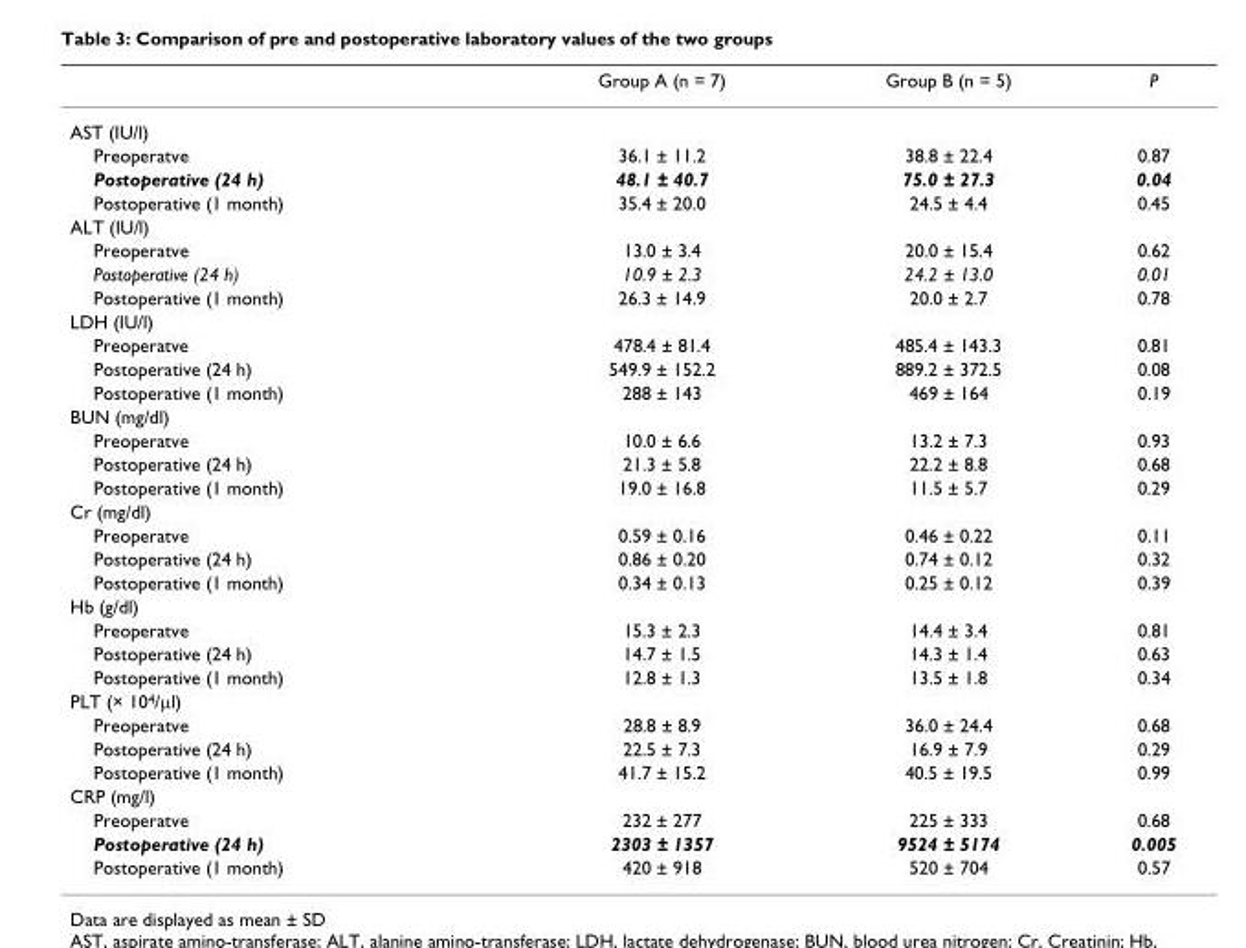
<table><thead><tr><td></td><td>Group A (n = 7)</td><td>Group B (n = 5)</td><td>P</td></tr></thead><tbody><tr><td colspan="4">AST (IU/l)</td></tr><tr><td>Preoperatve</td><td>36.1 ± 11.2</td><td>38.8 ± 22.4</td><td>0.87</td></tr><tr><td>Postoperative (24 h)</td><td>48.1 ± 40.7</td><td>75.0 ± 27.3</td><td>0.04</td></tr><tr><td>Postoperative (1 month)</td><td>35.4 ± 20.0</td><td>24.5 ± 4.4</td><td>0.45</td></tr><tr><td colspan="4">ALT (IU/l)</td></tr><tr><td>Preoperatve</td><td>13.0 ± 3.4</td><td>20.0 ± 15.4</td><td>0.62</td></tr><tr><td>Postoperative (24 h)</td><td>10.9 ± 2.3</td><td>24.2 ± 13.0</td><td>0.01</td></tr><tr><td>Postoperative (1 month)</td><td>26.3 ± 14.9</td><td>20.0 ± 2.7</td><td>0.78</td></tr><tr><td colspan="4">LDH (IU/l)</td></tr><tr><td>Preoperatve</td><td>478.4 ± 81.4</td><td>485.4 ± 143.3</td><td>0.81</td></tr><tr><td>Postoperative (24 h)</td><td>549.9 ± 152.2</td><td>889.2 ± 372.5</td><td>0.08</td></tr><tr><td>Postoperative (1 month)</td><td>288 ± 143</td><td>469 ± 164</td><td>0.19</td></tr><tr><td colspan="4">BUN (mg/dl)</td></tr><tr><td>Preoperatve</td><td>10.0 ± 6.6</td><td>13.2 ± 7.3</td><td>0.93</td></tr><tr><td>Postoperative (24 h)</td><td>21.3 ± 5.8</td><td>22.2 ± 8.8</td><td>0.68</td></tr><tr><td>Postoperative (1 month)</td><td>19.0 ± 16.8</td><td>11.5 ± 5.7</td><td>0.29</td></tr><tr><td colspan="4">Cr (mg/dl)</td></tr><tr><td>Preoperatve</td><td>0.59 ± 0.16</td><td>0.46 ± 0.22</td><td>0.11</td></tr><tr><td>Postoperative (24 h)</td><td>0.86 ± 0.20</td><td>0.74 ± 0.12</td><td>0.32</td></tr><tr><td>Postoperative (1 month)</td><td>0.34 ± 0.13</td><td>0.25 ± 0.12</td><td>0.39</td></tr><tr><td colspan="4">Hb (g/dl)</td></tr><tr><td>Preoperatve</td><td>15.3 ± 2.3</td><td>14.4 ± 3.4</td><td>0.81</td></tr><tr><td>Postoperative (24 h)</td><td>14.7 ± 1.5</td><td>14.3 ± 1.4</td><td>0.63</td></tr><tr><td>Postoperative (1 month)</td><td>12.8 ± 1.3</td><td>13.5 ± 1.8</td><td>0.34</td></tr><tr><td colspan="4">PLT (× 10<sup>4</sup>/μl)</td></tr><tr><td>Preoperatve</td><td>28.8 ± 8.9</td><td>36.0 ± 24.4</td><td>0.68</td></tr><tr><td>Postoperative (24 h)</td><td>22.5 ± 7.3</td><td>16.9 ± 7.9</td><td>0.29</td></tr><tr><td>Postoperative (1 month)</td><td>41.7 ± 15.2</td><td>40.5 ± 19.5</td><td>0.99</td></tr><tr><td colspan="4">CRP (mg/l)</td></tr><tr><td>Preoperatve</td><td>232 ± 277</td><td>225 ± 333</td><td>0.68</td></tr><tr><td>Postoperative (24 h)</td><td>2303 ± 1357</td><td>9524 ± 5174</td><td>0.005</td></tr><tr><td>Postoperative (1 month)</td><td>420 ± 918</td><td>520 ± 704</td><td>0.57</td></tr></tbody></table>